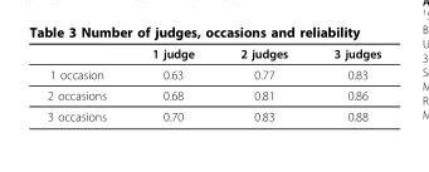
<table><thead><tr><td></td><td>1 judge</td><td>2 judges</td><td>3 judges</td></tr></thead><tbody><tr><td>1 occasion</td><td>0.63</td><td>0.77</td><td>0.83</td></tr><tr><td>2 occasions</td><td>0.68</td><td>0.81</td><td>0.86</td></tr><tr><td>3 occasions</td><td>0.70</td><td>0.83</td><td>0.88</td></tr></tbody></table>